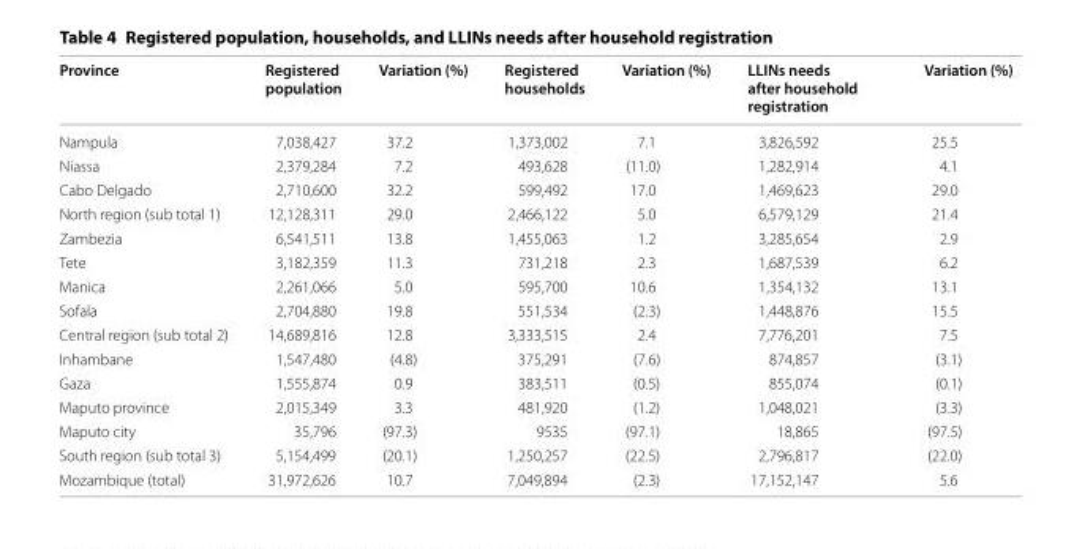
<table><thead><tr><td>Province</td><td>Registered population</td><td>Variation (%)</td><td>Registered households</td><td>Variation (%)</td><td>LLINs needs after household registration</td><td>Variation (%)</td></tr></thead><tbody><tr><td>Nampula</td><td>7,038,427</td><td>37.2</td><td>1,373,002</td><td>7.1</td><td>3,826,592</td><td>25.5</td></tr><tr><td>Niassa</td><td>2,379,284</td><td>7.2</td><td>493,628</td><td>(11.0)</td><td>1,282,914</td><td>4.1</td></tr><tr><td>Cabo Delgado</td><td>2,710,600</td><td>32.2</td><td>599,492</td><td>17.0</td><td>1,469,623</td><td>29.0</td></tr><tr><td>North region (sub total 1)</td><td>12,128,311</td><td>29.0</td><td>2,466,122</td><td>5.0</td><td>6,579,129</td><td>21.4</td></tr><tr><td>Zambezia</td><td>6,541,511</td><td>13.8</td><td>1,455,063</td><td>1.2</td><td>3,285,654</td><td>2.9</td></tr><tr><td>Tete</td><td>3,182,359</td><td>11.3</td><td>731,218</td><td>2.3</td><td>1,687,539</td><td>6.2</td></tr><tr><td>Manica</td><td>2,261,066</td><td>5.0</td><td>595,700</td><td>10.6</td><td>1,354,132</td><td>13.1</td></tr><tr><td>Sofala</td><td>2,704,880</td><td>19.8</td><td>551,534</td><td>(2.3)</td><td>1,448,876</td><td>15.5</td></tr><tr><td>Central region (sub total 2)</td><td>14,689,816</td><td>12.8</td><td>3,333,515</td><td>2.4</td><td>7,776,201</td><td>7.5</td></tr><tr><td>Inhambane</td><td>1,547,480</td><td>(4.8)</td><td>375,291</td><td>(7.6)</td><td>874,857</td><td>(3.1)</td></tr><tr><td>Gaza</td><td>1,555,874</td><td>0.9</td><td>383,511</td><td>(0.5)</td><td>855,074</td><td>(0.1)</td></tr><tr><td>Maputo province</td><td>2,015,349</td><td>3.3</td><td>481,920</td><td>(1.2)</td><td>1,048,021</td><td>(3.3)</td></tr><tr><td>Maputo city</td><td>35,796</td><td>(97.3)</td><td>9535</td><td>(97.1)</td><td>18,865</td><td>(97.5)</td></tr><tr><td>South region (sub total 3)</td><td>5,154,499</td><td>(20.1)</td><td>1,250,257</td><td>(22.5)</td><td>2,796,817</td><td>(22.0)</td></tr><tr><td>Mozambique (total)</td><td>31,972,626</td><td>10.7</td><td>7,049,894</td><td>(2.3)</td><td>17,152,147</td><td>5.6</td></tr></tbody></table>